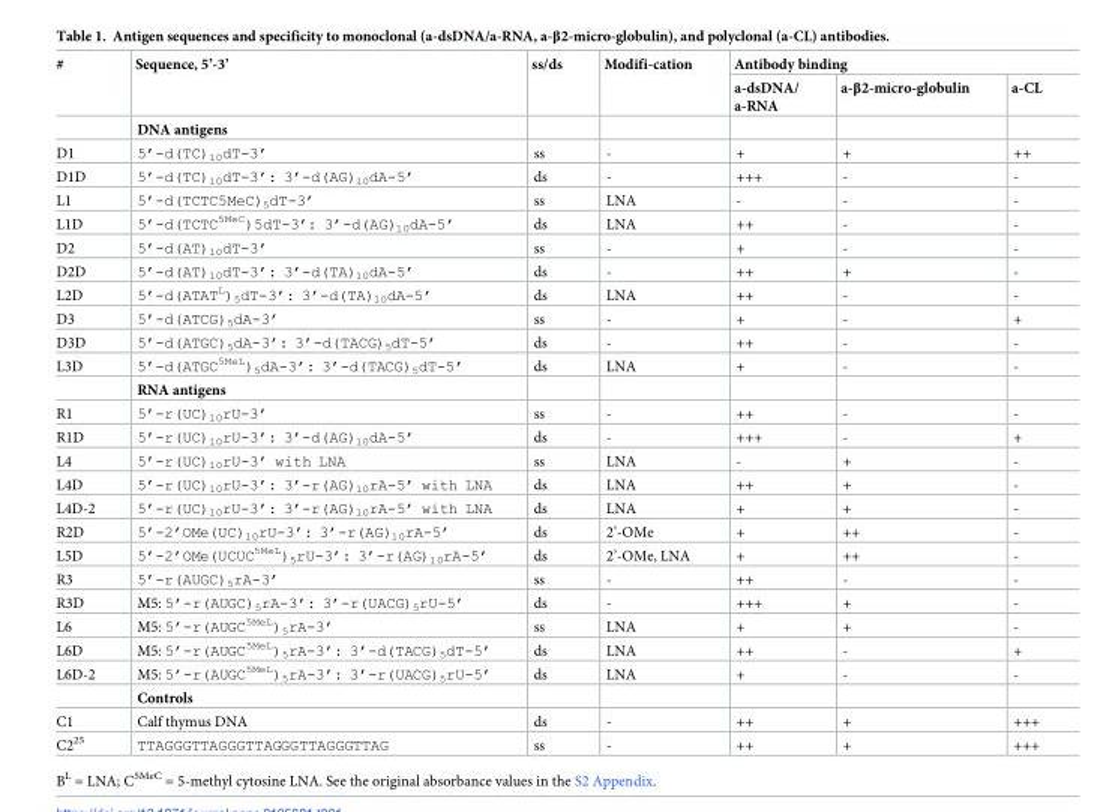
<table><thead><tr><td rowspan="2">#</td><td rowspan="2">Sequence, 5’-3’</td><td rowspan="2">ss/ds</td><td rowspan="2">Modifi-cation</td><td colspan="3">Antibody binding</td></tr><tr><td>a-dsDNA/ a-RNA</td><td>a-β2-micro-globulin</td><td>a-CL</td></tr></thead><tbody><tr><td></td><td>DNA antigens</td><td></td><td></td><td></td><td></td><td></td></tr><tr><td>D1</td><td>5’-d(TC)<sub>10</sub>dT-3’</td><td>ss</td><td>-</td><td>+</td><td>+</td><td>++</td></tr><tr><td>D1D</td><td>5’-d(TC)<sub>10</sub>dT-3’: 3’-d(AG)<sub>10</sub>dA-5’</td><td>ds</td><td>-</td><td>+++</td><td>-</td><td>-</td></tr><tr><td>L1</td><td>5’-d(TCTC5MeC)<sub>5</sub>dT-3’</td><td>ss</td><td>LNA</td><td>-</td><td>-</td><td>-</td></tr><tr><td>L1D</td><td>5’-d(TCTC<sup>5MeC</sup>)5dT-3’: 3’-d(AG)<sub>10</sub>dA-5’</td><td>ds</td><td>LNA</td><td>++</td><td>-</td><td>-</td></tr><tr><td>D2</td><td>5’-d(AT)<sub>10</sub>dT-3’</td><td>ss</td><td>-</td><td>+</td><td>-</td><td>-</td></tr><tr><td>D2D</td><td>5’-d(AT)<sub>10</sub>dT-3’: 3’-d(TA)<sub>10</sub>dA-5’</td><td>ds</td><td>-</td><td>++</td><td>+</td><td>-</td></tr><tr><td>L2D</td><td>5’-d(ATAT<sup>L</sup>)<sub>5</sub>dT-3’: 3’-d(TA)<sub>10</sub>dA-5’</td><td>ds</td><td>LNA</td><td>++</td><td>-</td><td>-</td></tr><tr><td>D3</td><td>5’-d(ATCG)<sub>5</sub>dA-3’</td><td>ss</td><td>-</td><td>+</td><td>-</td><td>+</td></tr><tr><td>D3D</td><td>5’-d(ATGC)<sub>5</sub>dA-3’: 3’-d(TACG)<sub>5</sub>dT-5’</td><td>ds</td><td>-</td><td>++</td><td>-</td><td>-</td></tr><tr><td rowspan="2">L3D</td><td>5’-d(ATGC<sup>5MeL</sup>)<sub>5</sub>dA-3’: 3’-d(TACG)<sub>5</sub>dT-5’</td><td>ds</td><td>LNA</td><td>+</td><td>-</td><td>-</td></tr><tr><td>RNA antigens</td><td></td><td></td><td></td><td></td><td></td></tr><tr><td>R1</td><td>5’-r(UC)<sub>10</sub>rU-3’</td><td>ss</td><td>-</td><td>++</td><td>-</td><td>-</td></tr><tr><td>R1D</td><td>5’-r(UC)<sub>10</sub>rU-3’: 3’-d(AG)<sub>10</sub>dA-5’</td><td>ds</td><td>-</td><td>+++</td><td>-</td><td>+</td></tr><tr><td>L4</td><td>5’-r(UC)<sub>10</sub>rU-3’ with LNA</td><td>ss</td><td>LNA</td><td>-</td><td>+</td><td>-</td></tr><tr><td>L4D</td><td>5’-r(UC)<sub>10</sub>rU-3’: 3’-r(AG)<sub>10</sub>rA-5’ with LNA</td><td>ds</td><td>LNA</td><td>++</td><td>+</td><td>-</td></tr><tr><td>L4D-2</td><td>5’-r(UC)<sub>10</sub>rU-3’: 3’-r(AG)<sub>10</sub>rA-5’ with LNA</td><td>ds</td><td>LNA</td><td>+</td><td>+</td><td>-</td></tr><tr><td>R2D</td><td>5’-2’OMe(UC)<sub>10</sub>rU-3’: 3’-r(AG)<sub>10</sub>rA-5’</td><td>ds</td><td>2’-OMe</td><td>+</td><td>++</td><td>-</td></tr><tr><td>L5D</td><td>5’-2’OMe(UCUC<sup>5MeL</sup>)<sub>5</sub>rU-3’: 3’-r(AG)<sub>10</sub>rA-5’</td><td>ds</td><td>2’-OMe, LNA</td><td>+</td><td>++</td><td>-</td></tr><tr><td>R3</td><td>5’-r(AUGC)<sub>5</sub>rA-3’</td><td>ss</td><td>-</td><td>++</td><td>-</td><td>-</td></tr><tr><td>R3D</td><td>M5: 5’-r(AUGC)<sub>5</sub>rA-3’: 3’-r(UACG)<sub>5</sub>rU-5’</td><td>ds</td><td>-</td><td>+++</td><td>+</td><td>-</td></tr><tr><td>L6</td><td>M5: 5’-r(AUGC<sup>5MeL</sup>)<sub>5</sub>rA-3’</td><td>ss</td><td>LNA</td><td>+</td><td>+</td><td>-</td></tr><tr><td>L6D</td><td>M5: 5’-r(AUGC<sup>5MeL</sup>)<sub>5</sub>rA-3’: 3’-d(TACG)<sub>5</sub>dT-5’</td><td>ds</td><td>LNA</td><td>++</td><td>-</td><td>+</td></tr><tr><td rowspan="2">L6D-2</td><td>M5: 5’-r(AUGC<sup>5MeL</sup>)<sub>5</sub>rA-3’: 3’-r(UACG)<sub>5</sub>rU-5’</td><td>ds</td><td>LNA</td><td>+</td><td>-</td><td>-</td></tr><tr><td>Controls</td><td></td><td></td><td></td><td></td><td></td></tr><tr><td>C1</td><td>Calf thymus DNA</td><td>ds</td><td>-</td><td>++</td><td>+</td><td>+++</td></tr><tr><td>C2<sup>25</sup></td><td>TTAGGGTTAGGGTTAGGGTTAGGGTTAG</td><td>ss</td><td>-</td><td>++</td><td>+</td><td>+++</td></tr></tbody></table>